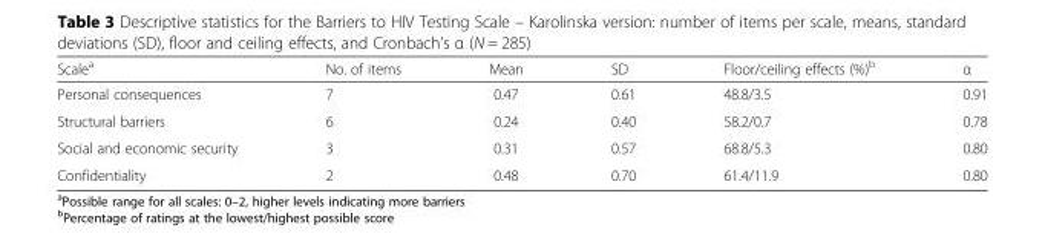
<table><thead><tr><td>Scale<sup>a</sup></td><td>No. of items</td><td>Mean</td><td>SD</td><td>Floor/ceiling effects (%)<sup>b</sup></td><td>α</td></tr></thead><tbody><tr><td>Personal consequences</td><td>7</td><td>0.47</td><td>0.61</td><td>48.8/3.5</td><td>0.91</td></tr><tr><td>Structural barriers</td><td>6</td><td>0.24</td><td>0.40</td><td>58.2/0.7</td><td>0.78</td></tr><tr><td>Social and economic security</td><td>3</td><td>0.31</td><td>0.57</td><td>68.8/5.3</td><td>0.80</td></tr><tr><td>Confidentiality</td><td>2</td><td>0.48</td><td>0.70</td><td>61.4/11.9</td><td>0.80</td></tr></tbody></table>